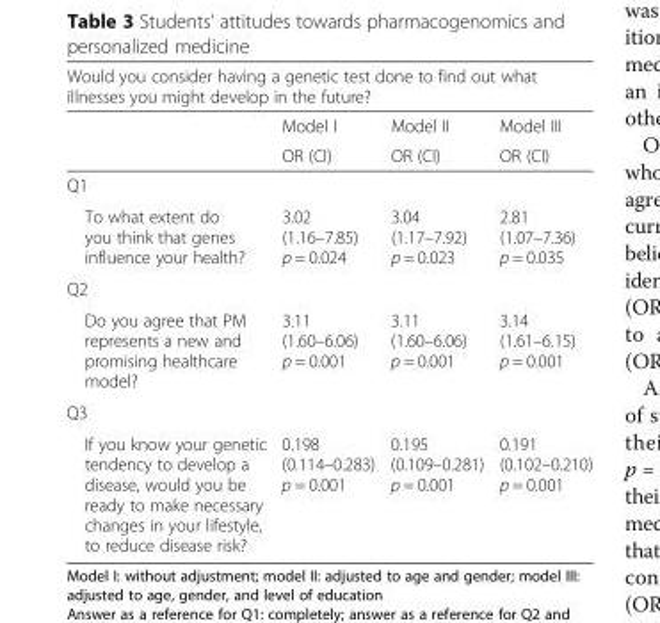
<table><thead><tr><td colspan="4">Would you consider having a genetic test done to find out what illnesses you might develop in the future?</td></tr><tr><td rowspan="2"></td><td rowspan="2">Model I OR (CI)</td><td rowspan="2">Model II OR (CI)</td><td rowspan="2">Model III OR (CI)</td></tr><tr></tr></thead><tbody><tr><td colspan="4">Q1</td></tr><tr><td>To what extent do you think that genes influence your health?</td><td>3.02 (1.16–7.85) p = 0.024</td><td>3.04 (1.17–7.92) p = 0.023</td><td>2.81 (1.07–7.36) p = 0.035</td></tr><tr><td colspan="4">Q2</td></tr><tr><td>Do you agree that PM represents a new and promising healthcare model?</td><td>3.11 (1.60–6.06) p = 0.001</td><td>3.11 (1.60–6.06) p = 0.001</td><td>3.14 (1.61–6.15) p = 0.001</td></tr><tr><td colspan="4">Q3</td></tr><tr><td>If you know your genetic tendency to develop a disease, would you be ready to make necessary changes in your lifestyle, to reduce disease risk?</td><td>0.198 (0.114–0.283) p = 0.001</td><td>0.195 (0.109–0.281) p = 0.001</td><td>0.191 (0.102–0.210) p = 0.001</td></tr></tbody></table>